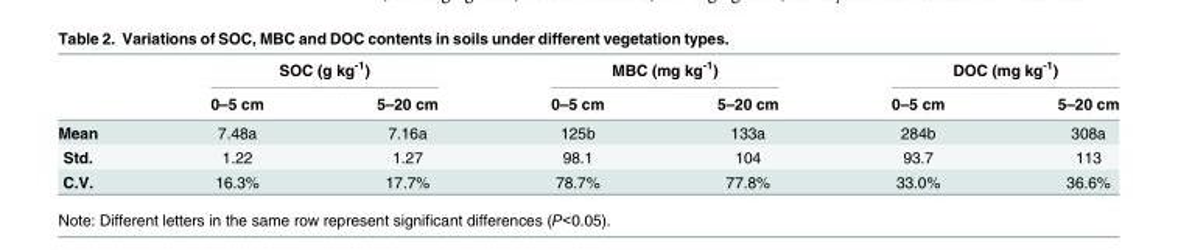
<table><thead><tr><td rowspan="2"></td><td colspan="2">SOC (g kg<sup>-1</sup>)</td><td colspan="2">MBC (mg kg<sup>-1</sup>)</td><td colspan="2">DOC (mg kg<sup>-1</sup>)</td></tr><tr><td>0–5 cm</td><td>5–20 cm</td><td>0–5 cm</td><td>5–20 cm</td><td>0–5 cm</td><td>5–20 cm</td></tr></thead><tbody><tr><td>Mean</td><td>7.48a</td><td>7.16a</td><td>125b</td><td>133a</td><td>284b</td><td>308a</td></tr><tr><td>Std.</td><td>1.22</td><td>1.27</td><td>98.1</td><td>104</td><td>93.7</td><td>113</td></tr><tr><td>C.V.</td><td>16.3%</td><td>17.7%</td><td>78.7%</td><td>77.8%</td><td>33.0%</td><td>36.6%</td></tr></tbody></table>